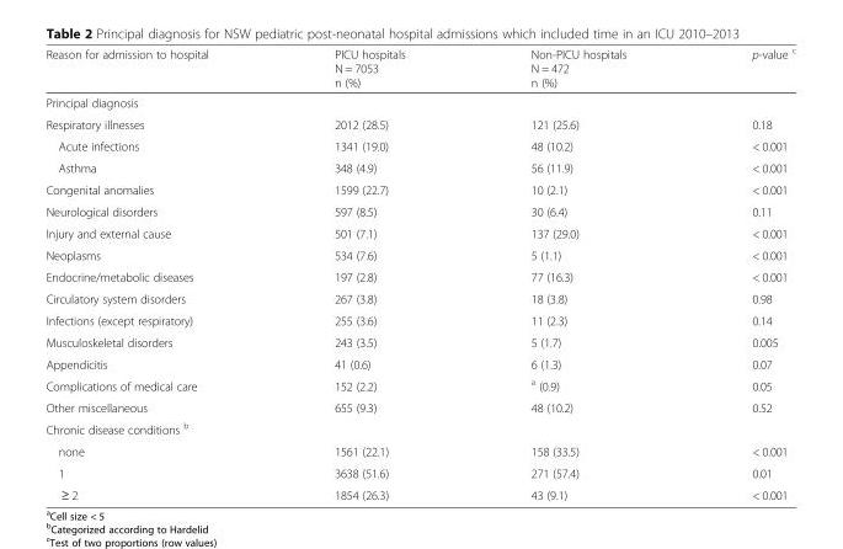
<table><thead><tr><td>Reason for admission to hospital</td><td>PICU hospitals N = 7053 n (%)</td><td>Non-PICU hospitals N = 472 n (%)</td><td>p-value <sup>c</sup></td></tr></thead><tbody><tr><td colspan="4">Principal diagnosis</td></tr><tr><td>Respiratory illnesses</td><td>2012 (28.5)</td><td>121 (25.6)</td><td>0.18</td></tr><tr><td>Acute infections</td><td>1341 (19.0)</td><td>48 (10.2)</td><td>&lt; 0.001</td></tr><tr><td>Asthma</td><td>348 (4.9)</td><td>56 (11.9)</td><td>&lt; 0.001</td></tr><tr><td>Congenital anomalies</td><td>1599 (22.7)</td><td>10 (2.1)</td><td>&lt; 0.001</td></tr><tr><td>Neurological disorders</td><td>597 (8.5)</td><td>30 (6.4)</td><td>0.11</td></tr><tr><td>Injury and external cause</td><td>501 (7.1)</td><td>137 (29.0)</td><td>&lt; 0.001</td></tr><tr><td>Neoplasms</td><td>534 (7.6)</td><td>5 (1.1)</td><td>&lt; 0.001</td></tr><tr><td>Endocrine/metabolic diseases</td><td>197 (2.8)</td><td>77 (16.3)</td><td>&lt; 0.001</td></tr><tr><td>Circulatory system disorders</td><td>267 (3.8)</td><td>18 (3.8)</td><td>0.98</td></tr><tr><td>Infections (except respiratory)</td><td>255 (3.6)</td><td>11 (2.3)</td><td>0.14</td></tr><tr><td>Musculoskeletal disorders</td><td>243 (3.5)</td><td>5 (1.7)</td><td>0.005</td></tr><tr><td>Appendicitis</td><td>41 (0.6)</td><td>6 (1.3)</td><td>0.07</td></tr><tr><td>Complications of medical care</td><td>152 (2.2)</td><td><sup>a</sup> (0.9)</td><td>0.05</td></tr><tr><td>Other miscellaneous</td><td>655 (9.3)</td><td>48 (10.2)</td><td>0.52</td></tr><tr><td colspan="4">Chronic disease conditions <sup>b</sup></td></tr><tr><td>none</td><td>1561 (22.1)</td><td>158 (33.5)</td><td>&lt; 0.001</td></tr><tr><td>1</td><td>3638 (51.6)</td><td>271 (57.4)</td><td>0.01</td></tr><tr><td>≥ 2</td><td>1854 (26.3)</td><td>43 (9.1)</td><td>&lt; 0.001</td></tr></tbody></table>